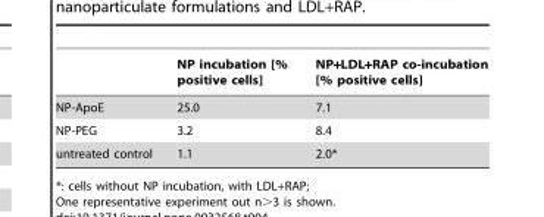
<table><thead><tr><td></td><td>NP incubation [% positive cells]</td><td>NP+LDL+RAP co-incubation [% positive cells]</td></tr></thead><tbody><tr><td>NP-ApoE</td><td>25.0</td><td>7.1</td></tr><tr><td>NP-PEG</td><td>3.2</td><td>8.4</td></tr><tr><td>untreated control</td><td>1.1</td><td>2.0*</td></tr></tbody></table>